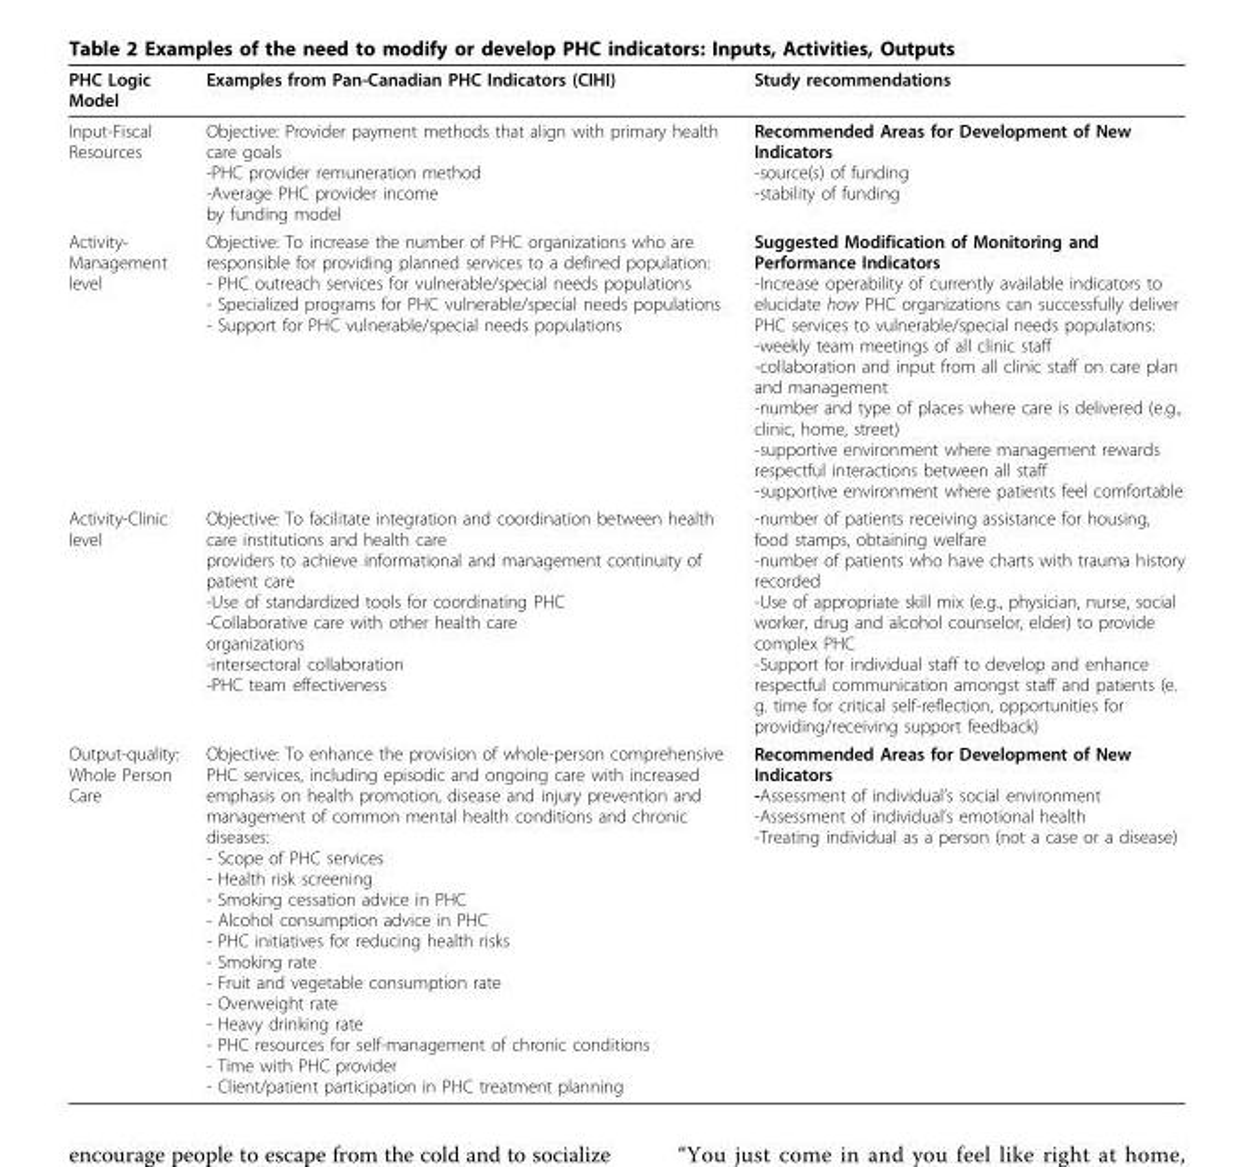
<table><thead><tr><td>PHC Logic Model</td><td>Examples from Pan-Canadian PHC Indicators (CIHI)</td><td>Study recommendations</td></tr></thead><tbody><tr><td>Input-Fiscal Resources</td><td>Objective: Provider payment methods that align with primary health care goals -PHC provider remuneration method -Average PHC provider income by funding model</td><td>Recommended Areas for Development of New Indicators -source(s) of funding -stability of funding</td></tr><tr><td>Activity- Management level</td><td>Objective: To increase the number of PHC organizations who are responsible for providing planned services to a defined population: - PHC outreach services for vulnerable/special needs populations - Specialized programs for PHC vulnerable/special needs populations - Support for PHC vulnerable/special needs populations</td><td>Suggested Modification of Monitoring and Performance Indicators -Increase operability of currently available indicators to elucidate how PHC organizations can successfully deliver PHC services to vulnerable/special needs populations: -weekly team meetings of all clinic staff -collaboration and input from all clinic staff on care plan and management -number and type of places where care is delivered (e.g., clinic, home, street) -supportive environment where management rewards respectful interactions between all staff -supportive environment where patients feel comfortable</td></tr><tr><td>Activity-Clinic level</td><td>Objective: To facilitate integration and coordination between health care institutions and health care providers to achieve informational and management continuity of patient care -Use of standardized tools for coordinating PHC -Collaborative care with other health care organizations -intersectoral collaboration -PHC team effectiveness</td><td>-number of patients receiving assistance for housing, food stamps, obtaining welfare -number of patients who have charts with trauma history recorded -Use of appropriate skill mix (e.g., physician, nurse, social worker, drug and alcohol counselor, elder) to provide complex PHC -Support for individual staff to develop and enhance respectful communication amongst staff and patients (e. g. time for critical self-reflection, opportunities for providing/receiving support feedback)</td></tr><tr><td>Output-quality: Whole Person Care</td><td>Objective: To enhance the provision of whole-person comprehensive PHC services, including episodic and ongoing care with increased emphasis on health promotion, disease and injury prevention and management of common mental health conditions and chronic diseases: - Scope of PHC services - Health risk screening - Smoking cessation advice in PHC - Alcohol consumption advice in PHC - PHC initiatives for reducing health risks - Smoking rate - Fruit and vegetable consumption rate - Overweight rate - Heavy drinking rate - PHC resources for self-management of chronic conditions - Time with PHC provider - Client/patient participation in PHC treatment planning</td><td>Recommended Areas for Development of New Indicators -Assessment of individual’s social environment -Assessment of individual’s emotional health -Treating individual as a person (not a case or a disease)</td></tr></tbody></table>